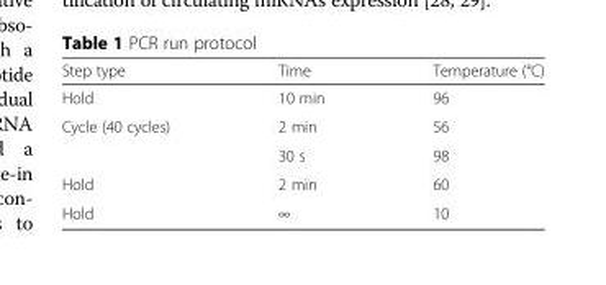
<table><thead><tr><td>Step type</td><td>Time</td><td>Temperature (°C)</td></tr></thead><tbody><tr><td>Hold</td><td>10 min</td><td>96</td></tr><tr><td rowspan="2">Cycle (40 cycles)</td><td>2 min</td><td>56</td></tr><tr><td>30 s</td><td>98</td></tr><tr><td>Hold</td><td>2 min</td><td>60</td></tr><tr><td>Hold</td><td>∞</td><td>10</td></tr></tbody></table>